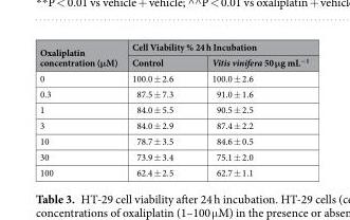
<table><thead><tr><td rowspan="2">Oxaliplatin concentration (μM)</td><td colspan="2">Cell Viability % 24 h Incubation</td></tr><tr><td>Control</td><td>Vitis vinifera 50 μg mL<sup>−1</sup></td></tr></thead><tbody><tr><td>0</td><td>100.0 ± 2.6</td><td>100.0 ± 2.6</td></tr><tr><td>0.3</td><td>87.5 ± 7.3</td><td>91.0 ± 1.6</td></tr><tr><td>1</td><td>84.0 ± 5.5</td><td>90.5 ± 2.5</td></tr><tr><td>3</td><td>84.0 ± 2.9</td><td>87.4 ± 2.2</td></tr><tr><td>10</td><td>78.7 ± 3.5</td><td>84.6 ± 0.5</td></tr><tr><td>30</td><td>73.9 ± 3.4</td><td>75.1 ± 2.0</td></tr><tr><td>100</td><td>62.4 ± 2.5</td><td>62.7 ± 1.1</td></tr></tbody></table>